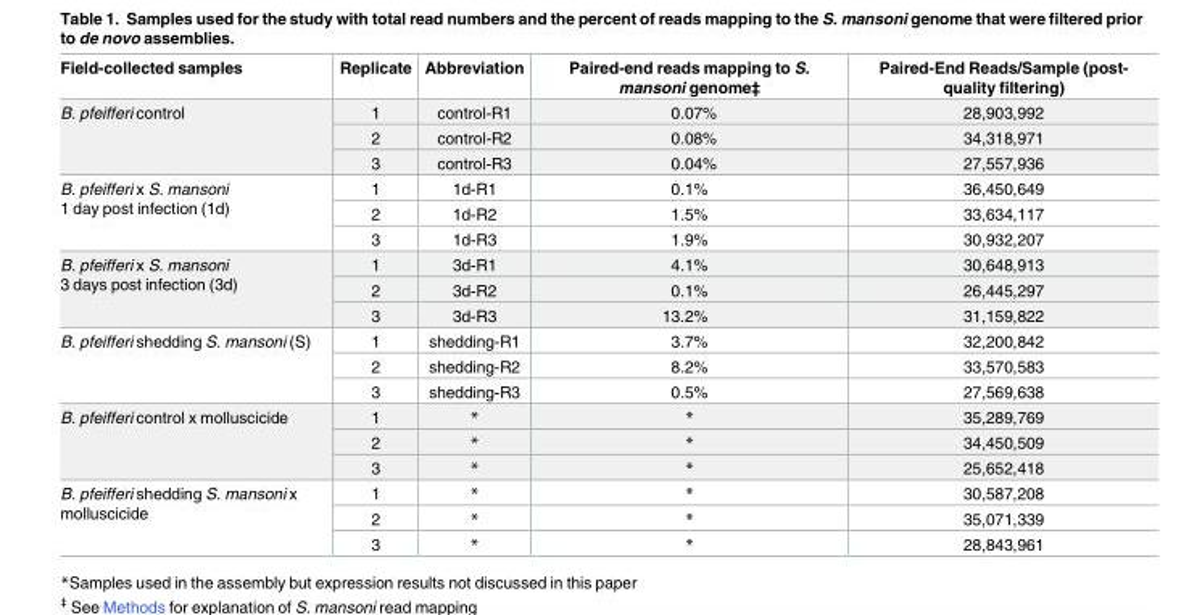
<table><thead><tr><td>Field-collected samples</td><td>Replicate</td><td>Abbreviation</td><td>Paired-end reads mapping to S. mansoni genome‡</td><td>Paired-End Reads/Sample (post- quality filtering)</td></tr></thead><tbody><tr><td rowspan="3">B. pfeifferi control</td><td>1</td><td>control-R1</td><td>0.07%</td><td>28,903,992</td></tr><tr><td>2</td><td>control-R2</td><td>0.08%</td><td>34,318,971</td></tr><tr><td>3</td><td>control-R3</td><td>0.04%</td><td>27,557,936</td></tr><tr><td rowspan="3">B. pfeifferi x S. mansoni 1 day post infection (1d)</td><td>1</td><td>1d-R1</td><td>0.1%</td><td>36,450,649</td></tr><tr><td>2</td><td>1d-R2</td><td>1.5%</td><td>33,634,117</td></tr><tr><td>3</td><td>1d-R3</td><td>1.9%</td><td>30,932,207</td></tr><tr><td rowspan="3">B. pfeifferi x S. mansoni 3 days post infection (3d)</td><td>1</td><td>3d-R1</td><td>4.1%</td><td>30,648,913</td></tr><tr><td>2</td><td>3d-R2</td><td>0.1%</td><td>26,445,297</td></tr><tr><td>3</td><td>3d-R3</td><td>13.2%</td><td>31,159,822</td></tr><tr><td rowspan="3">B. pfeifferi shedding S. mansoni (S)</td><td>1</td><td>shedding-R1</td><td>3.7%</td><td>32,200,842</td></tr><tr><td>2</td><td>shedding-R2</td><td>8.2%</td><td>33,570,583</td></tr><tr><td>3</td><td>shedding-R3</td><td>0.5%</td><td>27,569,638</td></tr><tr><td rowspan="3">B. pfeifferi control x molluscicide</td><td>1</td><td>*</td><td>*</td><td>35,289,769</td></tr><tr><td>2</td><td>*</td><td>*</td><td>34,450,509</td></tr><tr><td>3</td><td>*</td><td>*</td><td>25,652,418</td></tr><tr><td rowspan="3">B. pfeifferi shedding S. mansoni x molluscicide</td><td>1</td><td>*</td><td>*</td><td>30,587,208</td></tr><tr><td>2</td><td>*</td><td>*</td><td>35,071,339</td></tr><tr><td>3</td><td>*</td><td>*</td><td>28,843,961</td></tr></tbody></table>